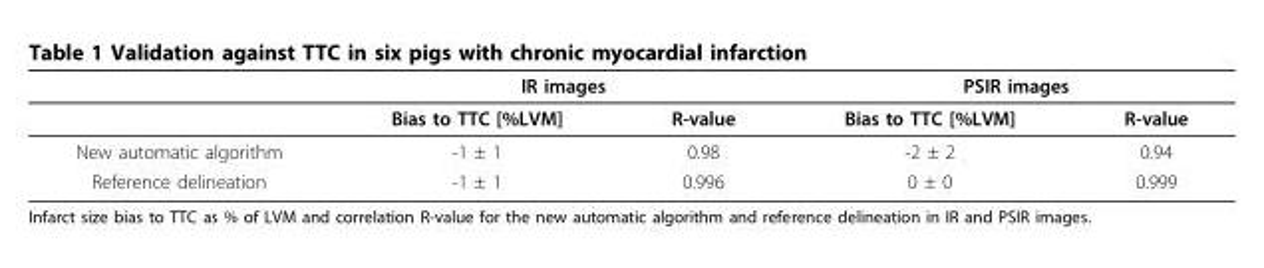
<table><thead><tr><td rowspan="2"></td><td colspan="2">IR images</td><td colspan="2">PSIR images</td></tr><tr><td>Bias to TTC [%LVM]</td><td>R-value</td><td>Bias to TTC [%LVM]</td><td>R-value</td></tr></thead><tbody><tr><td>New automatic algorithm</td><td>-1 ± 1</td><td>0.98</td><td>-2 ± 2</td><td>0.94</td></tr><tr><td>Reference delineation</td><td>-1 ± 1</td><td>0.996</td><td>0 ± 0</td><td>0.999</td></tr></tbody></table>